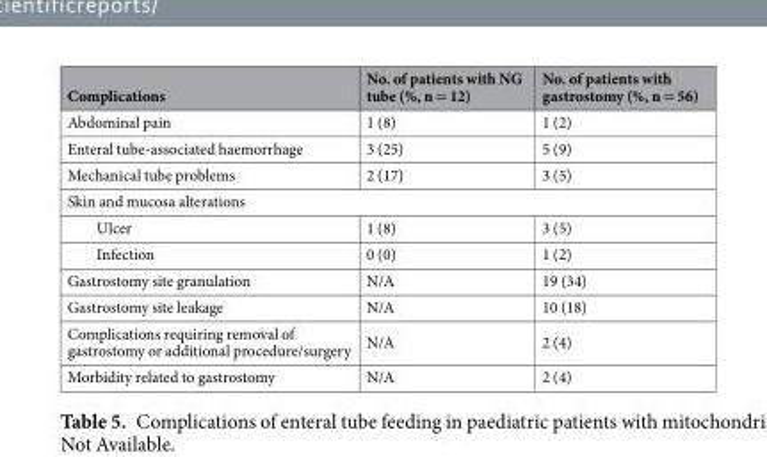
<table><thead><tr><td>Complications</td><td>No. of patients with NG tube (%, n = 12)</td><td>No. of patients with gastrostomy (%, n = 56)</td></tr></thead><tbody><tr><td>Abdominal pain</td><td>1 (8)</td><td>1 (2)</td></tr><tr><td>Enteral tube-associated haemorrhage</td><td>3 (25)</td><td>5 (9)</td></tr><tr><td>Mechanical tube problems</td><td>2 (17)</td><td>3 (5)</td></tr><tr><td colspan="3">Skin and mucosa alterations</td></tr><tr><td>Ulcer</td><td>1 (8)</td><td>3 (5)</td></tr><tr><td>Infection</td><td>0 (0)</td><td>1 (2)</td></tr><tr><td>Gastrostomy site granulation</td><td>N/A</td><td>19 (34)</td></tr><tr><td>Gastrostomy site leakage</td><td>N/A</td><td>10 (18)</td></tr><tr><td>Complications requiring removal of gastrostomy or additional procedure/surgery</td><td>N/A</td><td>2 (4)</td></tr><tr><td>Morbidity related to gastrostomy</td><td>N/A</td><td>2 (4)</td></tr></tbody></table>